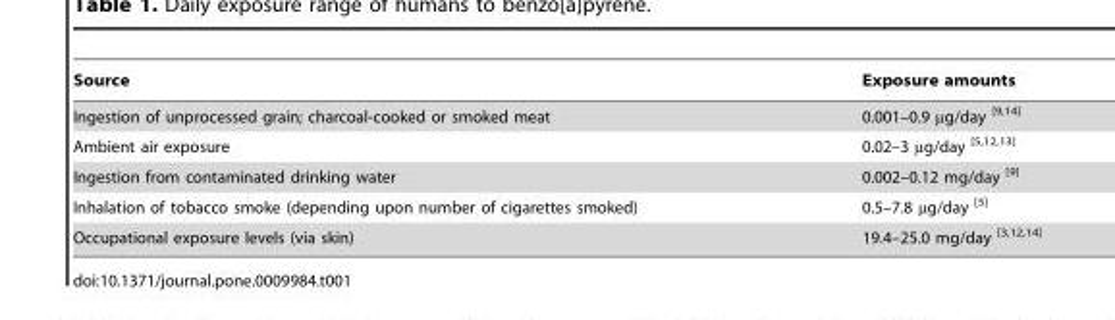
<table><thead><tr><td>Source</td><td>Exposure amounts</td></tr></thead><tbody><tr><td>Ingestion of unprocessed grain; charcoal-cooked or smoked meat</td><td>0.001–0.9 mg/day [9,14]</td></tr><tr><td>Ambient air exposure</td><td>0.02–3 mg/day [5,12,13]</td></tr><tr><td>Ingestion from contaminated drinking water</td><td>0.002–0.12 mg/day <sup>[9]</sup></td></tr><tr><td>Inhalation of tobacco smoke (depending upon number of cigarettes smoked)</td><td>0.5–7.8 µg/day <sup>[5]</sup></td></tr><tr><td>Occupational exposure levels (via skin)</td><td>19.4–25.0 mg/day [3,12,14]</td></tr></tbody></table>